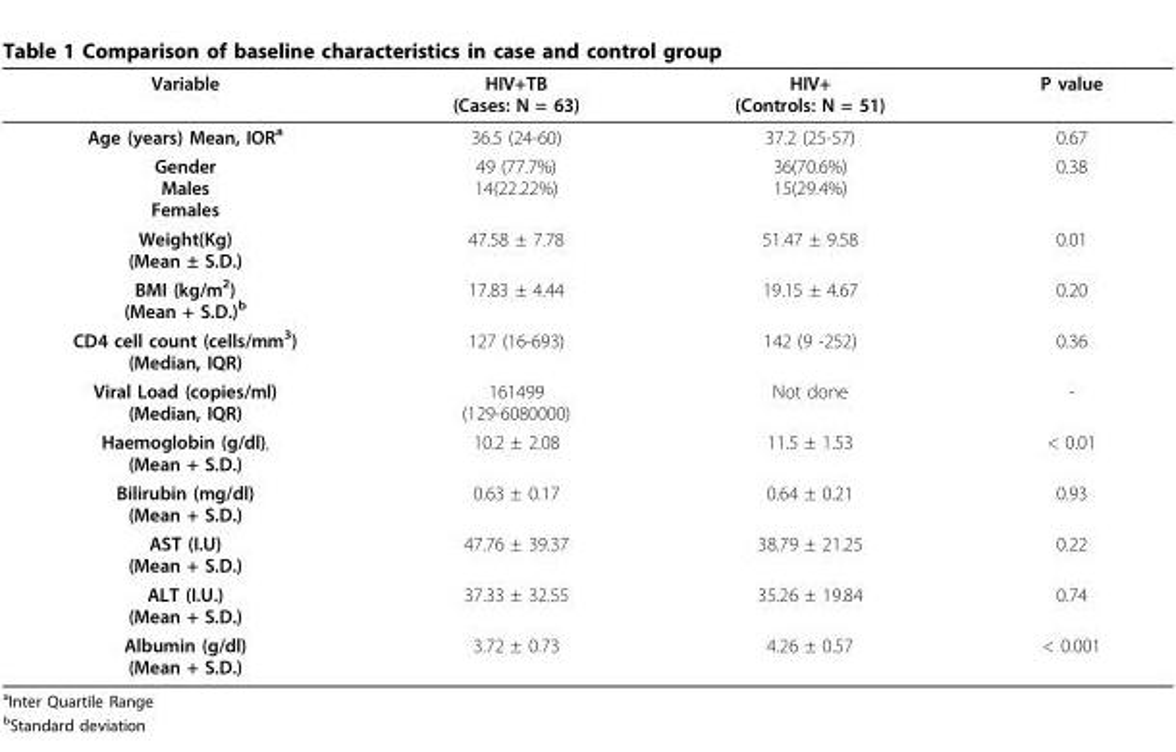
<table><thead><tr><td>Variable</td><td>HIV+TB (Cases: N = 63)</td><td>HIV+ (Controls: N = 51)</td><td>P value</td></tr></thead><tbody><tr><td>Age (years) Mean, IOR<sup>a</sup></td><td>36.5 (24-60)</td><td>37.2 (25-57)</td><td>0.67</td></tr><tr><td>Gender Males Females</td><td>49 (77.7%) 14(22.22%)</td><td>36(70.6%) 15(29.4%)</td><td>0.38</td></tr><tr><td>Weight(Kg) (Mean ± S.D.)</td><td>47.58 ± 7.78</td><td>51.47 ± 9.58</td><td>0.01</td></tr><tr><td>BMI (kg/m<sup>2</sup>) (Mean + S.D.)<sup>b</sup></td><td>17.83 ± 4.44</td><td>19.15 ± 4.67</td><td>0.20</td></tr><tr><td>CD4 cell count (cells/mm<sup>3</sup>) (Median, IQR)</td><td>127 (16-693)</td><td>142 (9 -252)</td><td>0.36</td></tr><tr><td>Viral Load (copies/ml) (Median, IQR)</td><td>161499 (129-6080000)</td><td>Not done</td><td>-</td></tr><tr><td>Haemoglobin (g/dl), (Mean + S.D.)</td><td>10.2 ± 2.08</td><td>11.5 ± 1.53</td><td>&lt; 0.01</td></tr><tr><td>Bilirubin (mg/dl) (Mean + S.D.)</td><td>0.63 ± 0.17</td><td>0.64 ± 0.21</td><td>0.93</td></tr><tr><td>AST (I.U) (Mean + S.D.)</td><td>47.76 ± 39.37</td><td>38.79 ± 21.25</td><td>0.22</td></tr><tr><td>ALT (I.U.) (Mean + S.D.)</td><td>37.33 ± 32.55</td><td>35.26 ± 19.84</td><td>0.74</td></tr><tr><td>Albumin (g/dl) (Mean + S.D.)</td><td>3.72 ± 0.73</td><td>4.26 ± 0.57</td><td>&lt; 0.001</td></tr></tbody></table>